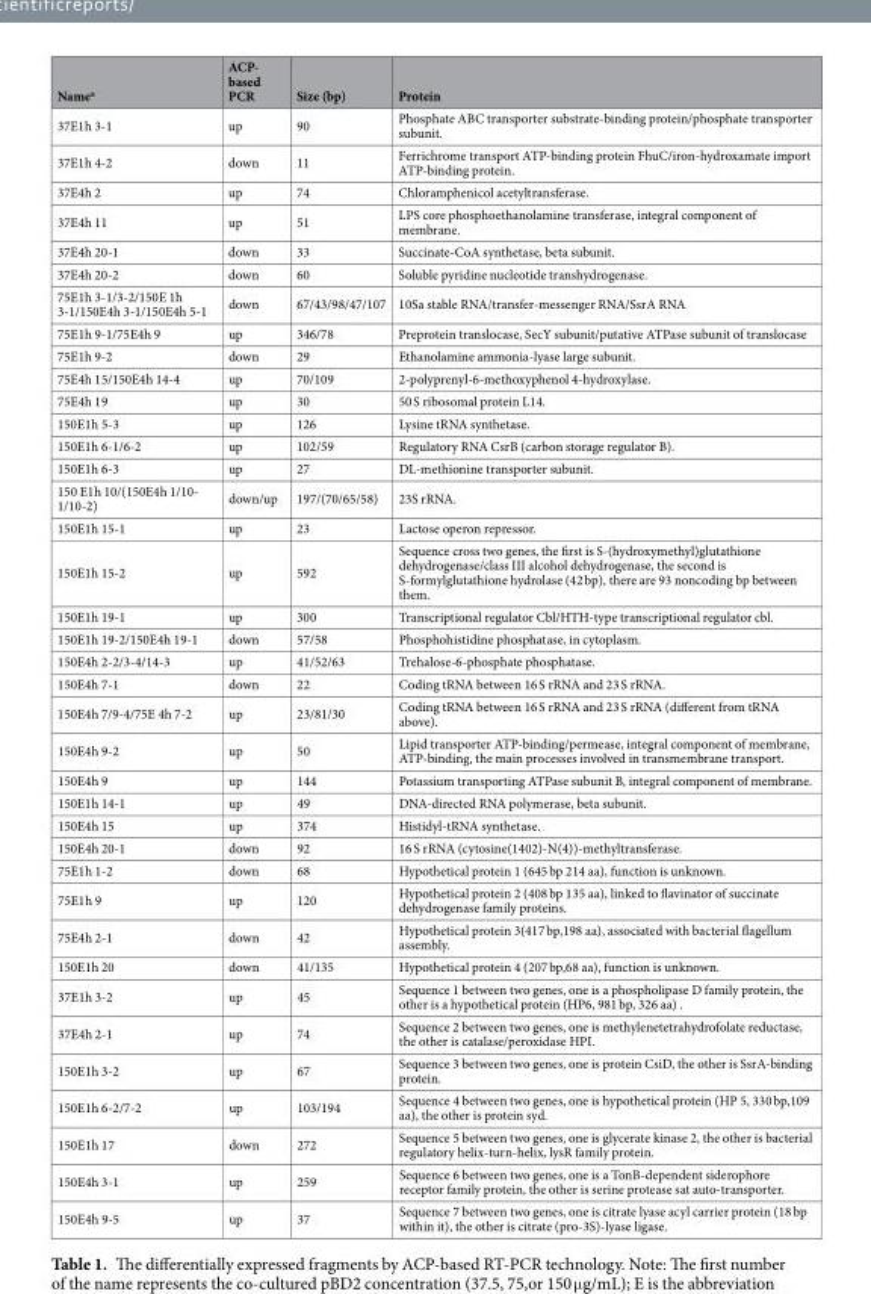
<table><thead><tr><td>Name<sup>a</sup></td><td>ACP- based PCR</td><td>Size (bp)</td><td>Protein</td></tr></thead><tbody><tr><td>37E1h 3-1</td><td>up</td><td>90</td><td>Phosphate ABC transporter substrate-binding protein/phosphate transporter subunit.</td></tr><tr><td>37E1h 4-2</td><td>down</td><td>11</td><td>Ferrichrome transport ATP-binding protein FhuC/iron-hydroxamate import ATP-binding protein.</td></tr><tr><td>37E4h 2</td><td>up</td><td>74</td><td>Chloramphenicol acetyltransferase.</td></tr><tr><td>37E4h 11</td><td>up</td><td>51</td><td>LPS core phosphoethanolamine transferase, integral component of membrane.</td></tr><tr><td>37E4h 20-1</td><td>down</td><td>33</td><td>Succinate-CoA synthetase, beta subunit.</td></tr><tr><td>37E4h 20-2</td><td>down</td><td>60</td><td>Soluble pyridine nucleotide transhydrogenase.</td></tr><tr><td>75E1h 3-1/3-2/150E 1h 3-1/150E4h 3-1/150E4h 5-1</td><td>down</td><td>67/43/98/47/107</td><td>10Sa stable RNA/transfer-messenger RNA/SsrA RNA</td></tr><tr><td>75E1h 9-1/75E4h 9</td><td>up</td><td>346/78</td><td>Preprotein translocase, SecY subunit/putative ATPase subunit of translocase</td></tr><tr><td>75E1h 9-2</td><td>down</td><td>29</td><td>Ethanolamine ammonia-lyase large subunit.</td></tr><tr><td>75E4h 15/150E4h 14-4</td><td>up</td><td>70/109</td><td>2-polyprenyl-6-methoxyphenol 4-hydroxylase.</td></tr><tr><td>75E4h 19</td><td>up</td><td>30</td><td>50 S ribosomal protein L14.</td></tr><tr><td>150E1h 5-3</td><td>up</td><td>126</td><td>Lysine tRNA synthetase.</td></tr><tr><td>150E1h 6-1/6-2</td><td>up</td><td>102/59</td><td>Regulatory RNA CsrB (carbon storage regulator B).</td></tr><tr><td>150E1h 6-3</td><td>up</td><td>27</td><td>DL-methionine transporter subunit.</td></tr><tr><td>150 E1h 10/(150E4h 1/10- 1/10-2)</td><td>down/up</td><td>197/(70/65/58)</td><td>23S rRNA.</td></tr><tr><td>150E1h 15-1</td><td>up</td><td>23</td><td>Lactose operon repressor.</td></tr><tr><td>150E1h 15-2</td><td>up</td><td>592</td><td>Sequence cross two genes, the first is S-(hydroxymethyl)glutathione dehydrogenase/class III alcohol dehydrogenase, the second is S-formylglutathione hydrolase (42 bp), there are 93 noncoding bp between them.</td></tr><tr><td>150E1h 19-1</td><td>up</td><td>300</td><td>Transcriptional regulator Cbl/HTH-type transcriptional regulator cbl.</td></tr><tr><td>150E1h 19-2/150E4h 19-1</td><td>down</td><td>57/58</td><td>Phosphohistidine phosphatase, in cytoplasm.</td></tr><tr><td>150E4h 2-2/3-4/14-3</td><td>up</td><td>41/52/63</td><td>Trehalose-6-phosphate phosphatase.</td></tr><tr><td>150E4h 7-1</td><td>down</td><td>22</td><td>Coding tRNA between 16 S rRNA and 23 S rRNA.</td></tr><tr><td>150E4h 7/9-4/75E 4h 7-2</td><td>up</td><td>23/81/30</td><td>Coding tRNA between 16 S rRNA and 23 S rRNA (different from tRNA above).</td></tr><tr><td>150E4h 9-2</td><td>up</td><td>50</td><td>Lipid transporter ATP-binding/permease, integral component of membrane, ATP-binding, the main processes involved in transmembrane transport.</td></tr><tr><td>150E4h 9</td><td>up</td><td>144</td><td>Potassium transporting ATPase subunit B, integral component of membrane.</td></tr><tr><td>150E1h 14-1</td><td>up</td><td>49</td><td>DNA-directed RNA polymerase, beta subunit.</td></tr><tr><td>150E4h 15</td><td>up</td><td>374</td><td>Histidyl-tRNA synthetase.</td></tr><tr><td>150E4h 20-1</td><td>down</td><td>92</td><td>16 S rRNA (cytosine(1402)-N(4))-methyltransferase.</td></tr><tr><td>75E1h 1-2</td><td>down</td><td>68</td><td>Hypothetical protein 1 (645 bp 214 aa), function is unknown.</td></tr><tr><td>75E1h 9</td><td>up</td><td>120</td><td>Hypothetical protein 2 (408 bp 135 aa), linked to flavinator of succinate dehydrogenase family proteins.</td></tr><tr><td>75E4h 2-1</td><td>down</td><td>42</td><td>Hypothetical protein 3(417 bp,198 aa), associated with bacterial flagellum assembly.</td></tr><tr><td>150E1h 20</td><td>down</td><td>41/135</td><td>Hypothetical protein 4 (207 bp,68 aa), function is unknown.</td></tr><tr><td>37E1h 3-2</td><td>up</td><td>45</td><td>Sequence 1 between two genes, one is a phospholipase D family protein, the other is a hypothetical protein (HP6, 981 bp, 326 aa) .</td></tr><tr><td>37E4h 2-1</td><td>up</td><td>74</td><td>Sequence 2 between two genes, one is methylenetetrahydrofolate reductase, the other is catalase/peroxidase HPI.</td></tr><tr><td>150E1h 3-2</td><td>up</td><td>67</td><td>Sequence 3 between two genes, one is protein CsiD, the other is SsrA-binding protein.</td></tr><tr><td>150E1h 6-2/7-2</td><td>up</td><td>103/194</td><td>Sequence 4 between two genes, one is hypothetical protein (HP 5, 330 bp,109 aa), the other is protein syd.</td></tr><tr><td>150E1h 17</td><td>down</td><td>272</td><td>Sequence 5 between two genes, one is glycerate kinase 2, the other is bacterial regulatory helix-turn-helix, lysR family protein.</td></tr><tr><td>150E4h 3-1</td><td>up</td><td>259</td><td>Sequence 6 between two genes, one is a TonB-dependent siderophore receptor family protein, the other is serine protease sat auto-transporter.</td></tr><tr><td>150E4h 9-5</td><td>up</td><td>37</td><td>Sequence 7 between two genes, one is citrate lyase acyl carrier protein (18 bp within it), the other is citrate (pro-3S)-lyase ligase.</td></tr></tbody></table>